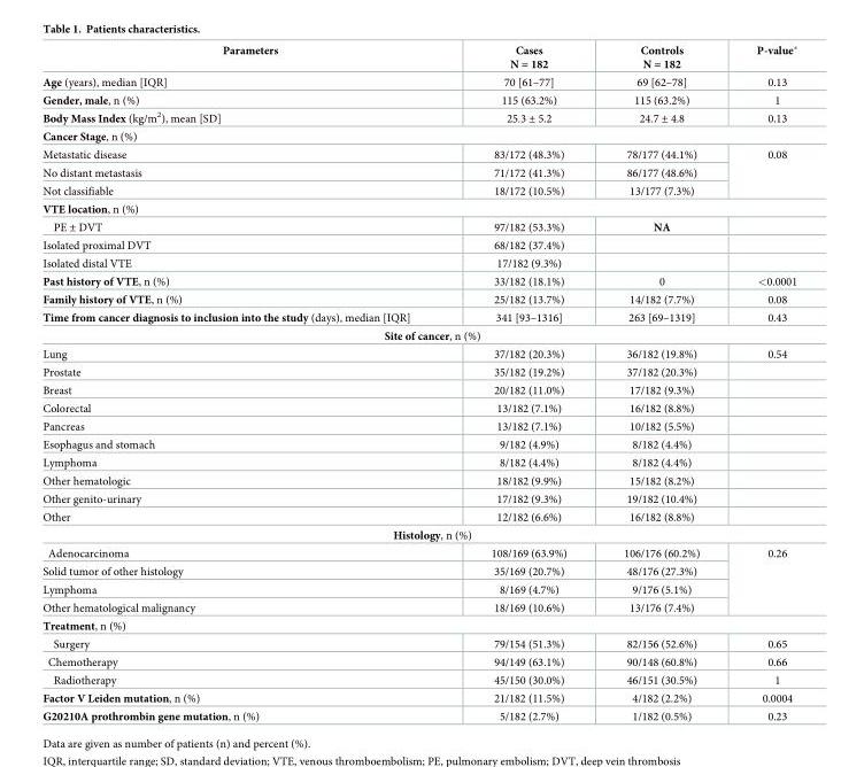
<table><thead><tr><td>Parameters</td><td>Cases N = 182</td><td>Controls N = 182</td><td>P-value*</td></tr></thead><tbody><tr><td>Age (years), median [IQR]</td><td>70 [61–77]</td><td>69 [62–78]</td><td>0.13</td></tr><tr><td>Gender, male, n (%)</td><td>115 (63.2%)</td><td>115 (63.2%)</td><td>1</td></tr><tr><td>Body Mass Index (kg/m<sup>2</sup>), mean [SD]</td><td>25.3 ± 5.2</td><td>24.7 ± 4.8</td><td>0.13</td></tr><tr><td colspan="4">Cancer Stage, n (%)</td></tr><tr><td>Metastatic disease</td><td>83/172 (48.3%)</td><td>78/177 (44.1%)</td><td rowspan="3">0.08</td></tr><tr><td>No distant metastasis</td><td>71/172 (41.3%)</td><td>86/177 (48.6%)</td></tr><tr><td>Not classifiable</td><td>18/172 (10.5%)</td><td>13/177 (7.3%)</td></tr><tr><td colspan="4">VTE location, n (%)</td></tr><tr><td>PE ± DVT</td><td>97/182 (53.3%)</td><td>NA</td><td></td></tr><tr><td>Isolated proximal DVT</td><td>68/182 (37.4%)</td><td></td><td></td></tr><tr><td>Isolated distal VTE</td><td>17/182 (9.3%)</td><td></td><td></td></tr><tr><td>Past history of VTE, n (%)</td><td>33/182 (18.1%)</td><td>0</td><td>&lt;0.0001</td></tr><tr><td>Family history of VTE, n (%)</td><td>25/182 (13.7%)</td><td>14/182 (7.7%)</td><td>0.08</td></tr><tr><td>Time from cancer diagnosis to inclusion into the study (days), median [IQR]</td><td>341 [93–1316]</td><td>263 [69–1319]</td><td>0.43</td></tr><tr><td colspan="4">Site of cancer, n (%)</td></tr><tr><td>Lung</td><td>37/182 (20.3%)</td><td>36/182 (19.8%)</td><td>0.54</td></tr><tr><td>Prostate</td><td>35/182 (19.2%)</td><td>37/182 (20.3%)</td><td></td></tr><tr><td>Breast</td><td>20/182 (11.0%)</td><td>17/182 (9.3%)</td><td></td></tr><tr><td>Colorectal</td><td>13/182 (7.1%)</td><td>16/182 (8.8%)</td><td></td></tr><tr><td>Pancreas</td><td>13/182 (7.1%)</td><td>10/182 (5.5%)</td><td></td></tr><tr><td>Esophagus and stomach</td><td>9/182 (4.9%)</td><td>8/182 (4.4%)</td><td></td></tr><tr><td>Lymphoma</td><td>8/182 (4.4%)</td><td>8/182 (4.4%)</td><td></td></tr><tr><td>Other hematologic</td><td>18/182 (9.9%)</td><td>15/182 (8.2%)</td><td></td></tr><tr><td>Other genito-urinary</td><td>17/182 (9.3%)</td><td>19/182 (10.4%)</td><td></td></tr><tr><td>Other</td><td>12/182 (6.6%)</td><td>16/182 (8.8%)</td><td></td></tr><tr><td colspan="4">Histology, n (%)</td></tr><tr><td>Adenocarcinoma</td><td>108/169 (63.9%)</td><td>106/176 (60.2%)</td><td rowspan="4">0.26</td></tr><tr><td>Solid tumor of other histology</td><td>35/169 (20.7%)</td><td>48/176 (27.3%)</td></tr><tr><td>Lymphoma</td><td>8/169 (4.7%)</td><td>9/176 (5.1%)</td></tr><tr><td>Other hematological malignancy</td><td>18/169 (10.6%)</td><td>13/176 (7.4%)</td></tr><tr><td colspan="4">Treatment, n (%)</td></tr><tr><td>Surgery</td><td>79/154 (51.3%)</td><td>82/156 (52.6%)</td><td>0.65</td></tr><tr><td>Chemotherapy</td><td>94/149 (63.1%)</td><td>90/148 (60.8%)</td><td>0.66</td></tr><tr><td>Radiotherapy</td><td>45/150 (30.0%)</td><td>46/151 (30.5%)</td><td>1</td></tr><tr><td>Factor V Leiden mutation, n (%)</td><td>21/182 (11.5%)</td><td>4/182 (2.2%)</td><td>0.0004</td></tr><tr><td>G20210A prothrombin gene mutation, n (%)</td><td>5/182 (2.7%)</td><td>1/182 (0.5%)</td><td>0.23</td></tr></tbody></table>